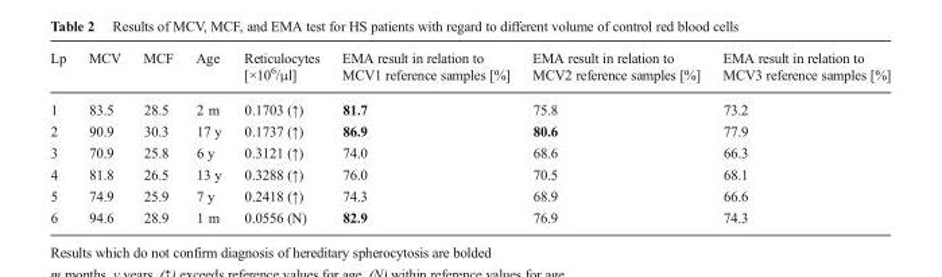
<table><thead><tr><td>Lp</td><td>MCV</td><td>MCF</td><td>Age</td><td>Reticulocytes [×10<sup>6</sup>/μl]</td><td>EMA result in relation to MCV1 reference samples [%]</td><td>EMA result in relation to MCV2 reference samples [%]</td><td>EMA result in relation to MCV3 reference samples [%]</td></tr></thead><tbody><tr><td>1</td><td>83.5</td><td>28.5</td><td>2 m</td><td>0.1703 (↑)</td><td>81.7</td><td>75.8</td><td>73.2</td></tr><tr><td>2</td><td>90.9</td><td>30.3</td><td>17 y</td><td>0.1737 (↑)</td><td>86.9</td><td>80.6</td><td>77.9</td></tr><tr><td>3</td><td>70.9</td><td>25.8</td><td>6 y</td><td>0.3121 (↑)</td><td>74.0</td><td>68.6</td><td>66.3</td></tr><tr><td>4</td><td>81.8</td><td>26.5</td><td>13 y</td><td>0.3288 (↑)</td><td>76.0</td><td>70.5</td><td>68.1</td></tr><tr><td>5</td><td>74.9</td><td>25.9</td><td>7 y</td><td>0.2418 (↑)</td><td>74.3</td><td>68.9</td><td>66.6</td></tr><tr><td>6</td><td>94.6</td><td>28.9</td><td>1 m</td><td>0.0556 (N)</td><td>82.9</td><td>76.9</td><td>74.3</td></tr></tbody></table>